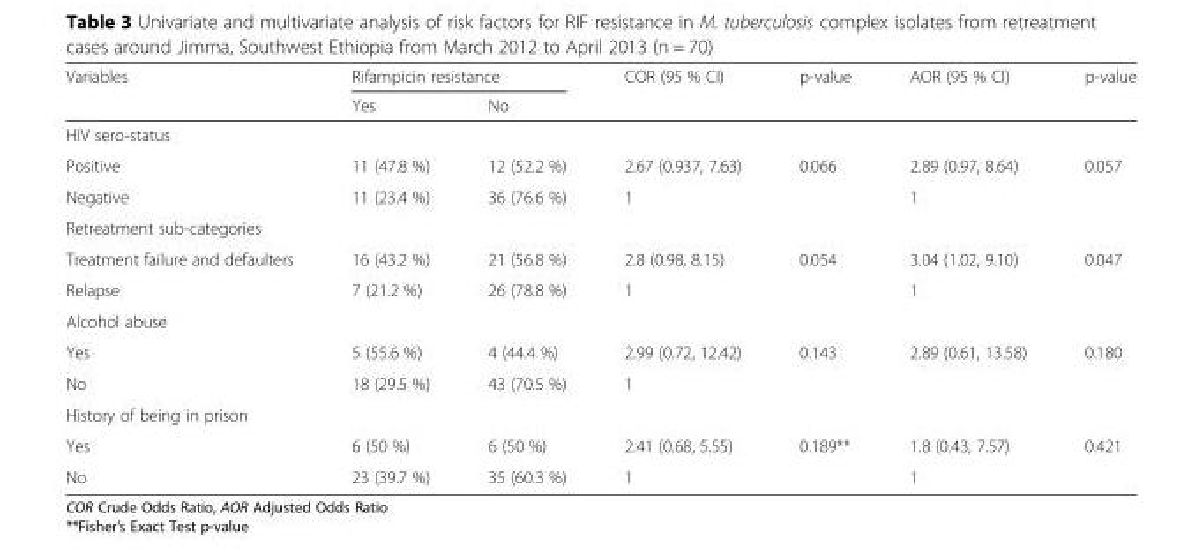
<table><thead><tr><td rowspan="2">Variables</td><td colspan="2">Rifampicin resistance</td><td rowspan="2">COR (95 % CI)</td><td rowspan="2">p-value</td><td rowspan="2">AOR (95 % CI)</td><td rowspan="2">p-value</td></tr><tr><td>Yes</td><td>No</td></tr></thead><tbody><tr><td colspan="7">HIV sero-status</td></tr><tr><td>Positive</td><td>11 (47.8 %)</td><td>12 (52.2 %)</td><td>2.67 (0.937, 7.63)</td><td>0.066</td><td>2.89 (0.97, 8.64)</td><td>0.057</td></tr><tr><td>Negative</td><td>11 (23.4 %)</td><td>36 (76.6 %)</td><td>1</td><td></td><td>1</td><td></td></tr><tr><td colspan="7">Retreatment sub-categories</td></tr><tr><td>Treatment failure and defaulters</td><td>16 (43.2 %)</td><td>21 (56.8 %)</td><td>2.8 (0.98, 8.15)</td><td>0.054</td><td>3.04 (1.02, 9.10)</td><td>0.047</td></tr><tr><td>Relapse</td><td>7 (21.2 %)</td><td>26 (78.8 %)</td><td>1</td><td></td><td>1</td><td></td></tr><tr><td colspan="7">Alcohol abuse</td></tr><tr><td>Yes</td><td>5 (55.6 %)</td><td>4 (44.4 %)</td><td>2.99 (0.72, 12.42)</td><td>0.143</td><td>2.89 (0.61, 13.58)</td><td>0.180</td></tr><tr><td>No</td><td>18 (29.5 %)</td><td>43 (70.5 %)</td><td>1</td><td></td><td></td><td></td></tr><tr><td colspan="7">History of being in prison</td></tr><tr><td>Yes</td><td>6 (50 %)</td><td>6 (50 %)</td><td>2.41 (0.68, 5.55)</td><td>0.189**</td><td>1.8 (0.43, 7.57)</td><td>0.421</td></tr><tr><td>No</td><td>23 (39.7 %)</td><td>35 (60.3 %)</td><td>1</td><td></td><td>1</td><td></td></tr></tbody></table>